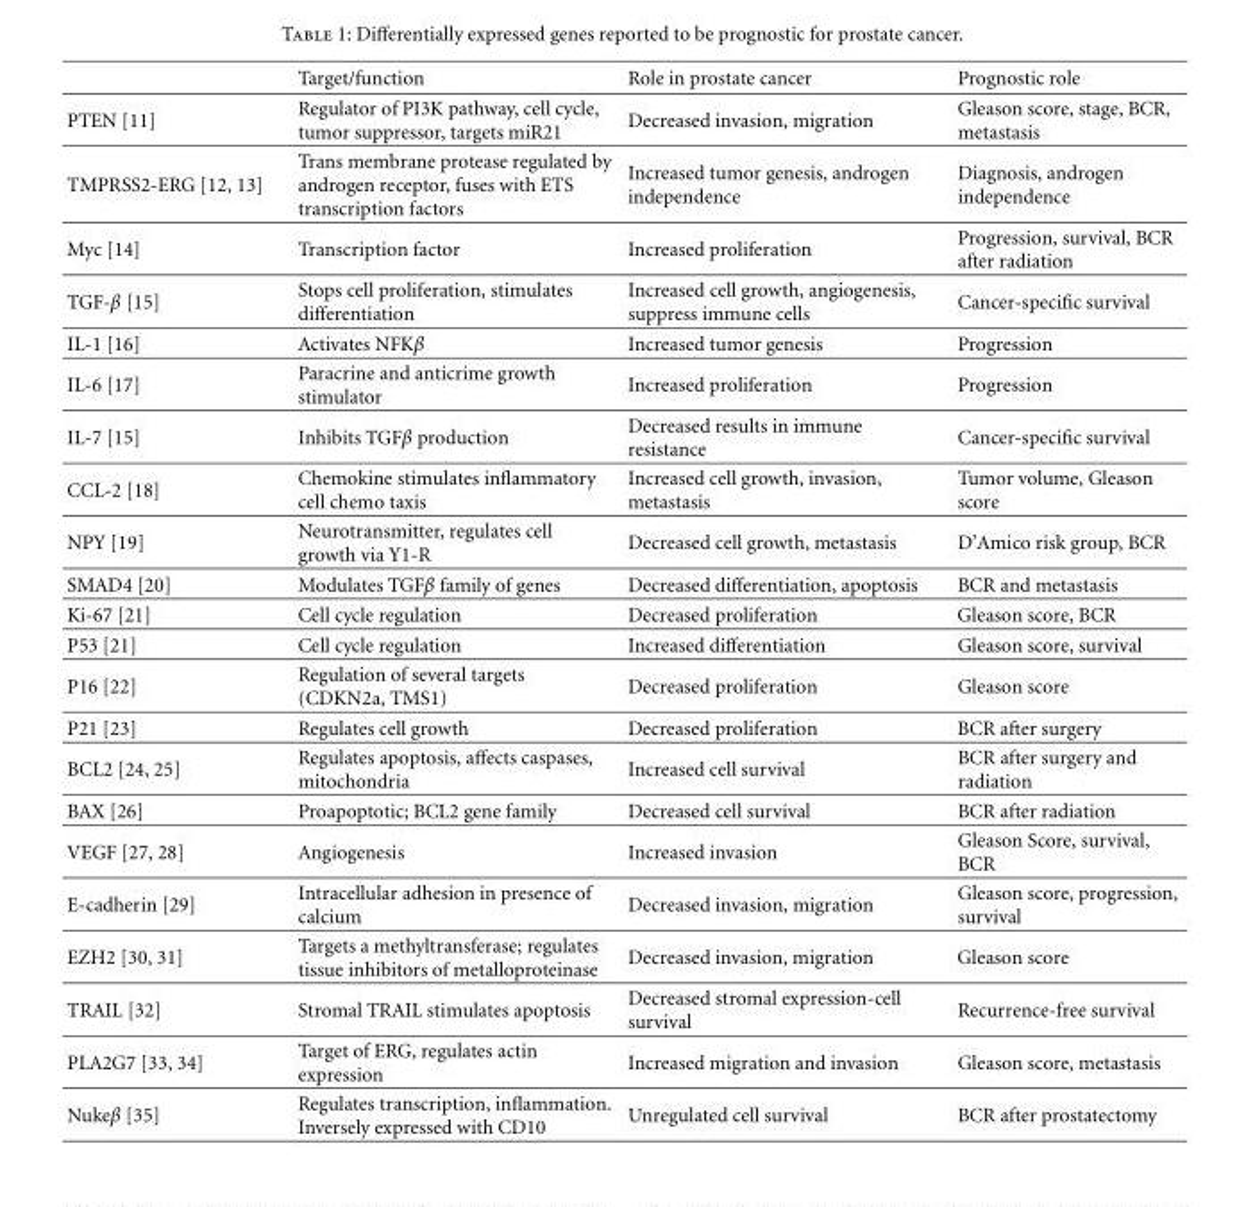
<table><thead><tr><td></td><td>Target/function</td><td>Role in prostate cancer</td><td>Prognostic role</td></tr></thead><tbody><tr><td>PTEN [11]</td><td>Regulator of PI3K pathway, cell cycle, tumor suppressor, targets miR21</td><td>Decreased invasion, migration</td><td>Gleason score, stage, BCR, metastasis</td></tr><tr><td>TMPRSS2-ERG [12, 13]</td><td>Trans membrane protease regulated by androgen receptor, fuses with ETS transcription factors</td><td>Increased tumor genesis, androgen independence</td><td>Diagnosis, androgen independence</td></tr><tr><td>Myc [14]</td><td>Transcription factor</td><td>Increased proliferation</td><td>Progression, survival, BCR after radiation</td></tr><tr><td>TGF-β [15]</td><td>Stops cell proliferation, stimulates differentiation</td><td>Increased cell growth, angiogenesis, suppress immune cells</td><td>Cancer-specific survival</td></tr><tr><td>IL-1 [16]</td><td>Activates NFKβ</td><td>Increased tumor genesis</td><td>Progression</td></tr><tr><td>IL-6 [17]</td><td>Paracrine and anticrime growth stimulator</td><td>Increased proliferation</td><td>Progression</td></tr><tr><td>IL-7 [15]</td><td>Inhibits TGFβ production</td><td>Decreased results in immune resistance</td><td>Cancer-specific survival</td></tr><tr><td>CCL-2 [18]</td><td>Chemokine stimulates inflammatory cell chemo taxis</td><td>Increased cell growth, invasion, metastasis</td><td>Tumor volume, Gleason score</td></tr><tr><td>NPY [19]</td><td>Neurotransmitter, regulates cell growth via Y1-R</td><td>Decreased cell growth, metastasis</td><td>D’Amico risk group, BCR</td></tr><tr><td>SMAD4 [20]</td><td>Modulates TGFβ family of genes</td><td>Decreased differentiation, apoptosis</td><td>BCR and metastasis</td></tr><tr><td>Ki-67 [21]</td><td>Cell cycle regulation</td><td>Decreased proliferation</td><td>Gleason score, BCR</td></tr><tr><td>P53 [21]</td><td>Cell cycle regulation</td><td>Increased differentiation</td><td>Gleason score, survival</td></tr><tr><td>P16 [22]</td><td>Regulation of several targets (CDKN2a, TMS1)</td><td>Decreased proliferation</td><td>Gleason score</td></tr><tr><td>P21 [23]</td><td>Regulates cell growth</td><td>Decreased proliferation</td><td>BCR after surgery</td></tr><tr><td>BCL2 [24, 25]</td><td>Regulates apoptosis, affects caspases, mitochondria</td><td>Increased cell survival</td><td>BCR after surgery and radiation</td></tr><tr><td>BAX [26]</td><td>Proapoptotic; BCL2 gene family</td><td>Decreased cell survival</td><td>BCR after radiation</td></tr><tr><td>VEGF [27, 28]</td><td>Angiogenesis</td><td>Increased invasion</td><td>Gleason Score, survival, BCR</td></tr><tr><td>E-cadherin [29]</td><td>Intracellular adhesion in presence of calcium</td><td>Decreased invasion, migration</td><td>Gleason score, progression, survival</td></tr><tr><td>EZH2 [30, 31]</td><td>Targets a methyltransferase; regulates tissue inhibitors of metalloproteinase</td><td>Decreased invasion, migration</td><td>Gleason score</td></tr><tr><td>TRAIL [32]</td><td>Stromal TRAIL stimulates apoptosis</td><td>Decreased stromal expression-cell survival</td><td>Recurrence-free survival</td></tr><tr><td>PLA2G7 [33, 34]</td><td>Target of ERG, regulates actin expression</td><td>Increased migration and invasion</td><td>Gleason score, metastasis</td></tr><tr><td>Nukeβ [35]</td><td>Regulates transcription, inflammation. Inversely expressed with CD10</td><td>Unregulated cell survival</td><td>BCR after prostatectomy</td></tr></tbody></table>